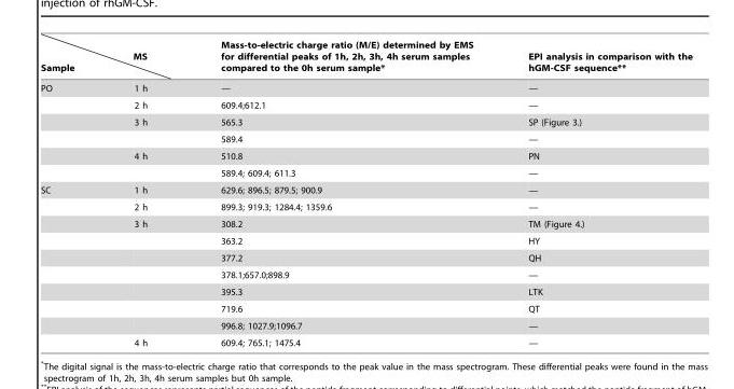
<table><thead><tr><td colspan="2">MS Sample</td><td rowspan="2">Mass-to-electric charge ratio (M/E) determined by EMS for differential peaks of 1h, 2h, 3h, 4h serum samples compared to the 0h serum sample* —</td><td rowspan="2">EPI analysis in comparison with the hGM-CSF sequence** —</td></tr><tr><td>PO</td><td>1 h</td></tr></thead><tbody><tr><td></td><td>2 h</td><td>609.4;612.1</td><td>—</td></tr><tr><td></td><td>3 h</td><td>565.3</td><td>SP (Figure 3.)</td></tr><tr><td></td><td></td><td>589.4</td><td>—</td></tr><tr><td></td><td>4 h</td><td>510.8</td><td>PN</td></tr><tr><td></td><td></td><td>589.4; 609.4; 611.3</td><td>—</td></tr><tr><td rowspan="10">SC</td><td>1 h</td><td>629.6; 896.5; 879.5; 900.9</td><td>—</td></tr><tr><td>2 h</td><td>899.3; 919.3; 1284.4; 1359.6</td><td>—</td></tr><tr><td>3 h</td><td>308.2</td><td>TM (Figure 4.)</td></tr><tr><td></td><td>363.2</td><td>HY</td></tr><tr><td></td><td>377.2</td><td>QH</td></tr><tr><td></td><td>378.1;657.0;898.9</td><td>—</td></tr><tr><td></td><td>395.3</td><td>LTK</td></tr><tr><td></td><td>719.6</td><td>QT</td></tr><tr><td></td><td>996.8; 1027.9;1096.7</td><td>—</td></tr><tr><td>4 h</td><td>609.4; 765.1; 1475.4</td><td>—</td></tr></tbody></table>